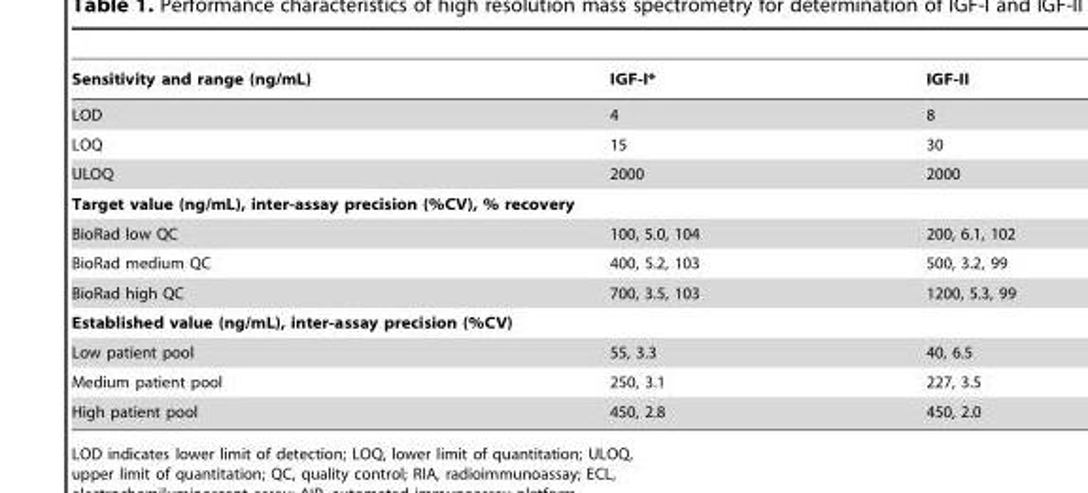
<table><thead><tr><td>Sensitivity and range (ng/mL)</td><td>IGF-I*</td><td>IGF-II</td></tr></thead><tbody><tr><td>LOD</td><td>4</td><td>8</td></tr><tr><td>LOQ</td><td>15</td><td>30</td></tr><tr><td>ULOQ</td><td>2000</td><td>2000</td></tr><tr><td colspan="3">Target value (ng/mL), inter-assay precision (%CV), % recovery</td></tr><tr><td>BioRad low QC</td><td>100, 5.0, 104</td><td>200, 6.1, 102</td></tr><tr><td>BioRad medium QC</td><td>400, 5.2, 103</td><td>500, 3.2, 99</td></tr><tr><td>BioRad high QC</td><td>700, 3.5, 103</td><td>1200, 5.3, 99</td></tr><tr><td colspan="3">Established value (ng/mL), inter-assay precision (%CV)</td></tr><tr><td>Low patient pool</td><td>55, 3.3</td><td>40, 6.5</td></tr><tr><td>Medium patient pool</td><td>250, 3.1</td><td>227, 3.5</td></tr><tr><td>High patient pool</td><td>450, 2.8</td><td>450, 2.0</td></tr></tbody></table>